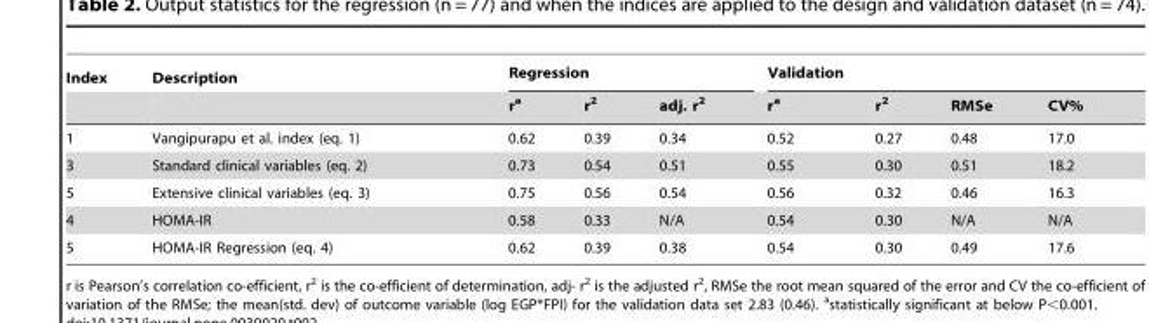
<table><thead><tr><td rowspan="2">Index</td><td rowspan="2">Description</td><td colspan="3">Regression</td><td colspan="4">Validation</td></tr><tr><td>r<sup>a</sup></td><td>r<sup>2</sup></td><td>adj. r<sup>2</sup></td><td>r<sup>a</sup></td><td>r<sup>2</sup></td><td>RMSe</td><td>CV%</td></tr></thead><tbody><tr><td>1</td><td>Vangipurapu et al. index (eq. 1)</td><td>0.62</td><td>0.39</td><td>0.34</td><td>0.52</td><td>0.27</td><td>0.48</td><td>17.0</td></tr><tr><td>3</td><td>Standard clinical variables (eq. 2)</td><td>0.73</td><td>0.54</td><td>0.51</td><td>0.55</td><td>0.30</td><td>0.51</td><td>18.2</td></tr><tr><td>5</td><td>Extensive clinical variables (eq. 3)</td><td>0.75</td><td>0.56</td><td>0.54</td><td>0.56</td><td>0.32</td><td>0.46</td><td>16.3</td></tr><tr><td>4</td><td>HOMA-IR</td><td>0.58</td><td>0.33</td><td>N/A</td><td>0.54</td><td>0.30</td><td>N/A</td><td>N/A</td></tr><tr><td>5</td><td>HOMA-IR Regression (eq. 4)</td><td>0.62</td><td>0.39</td><td>0.38</td><td>0.54</td><td>0.30</td><td>0.49</td><td>17.6</td></tr></tbody></table>